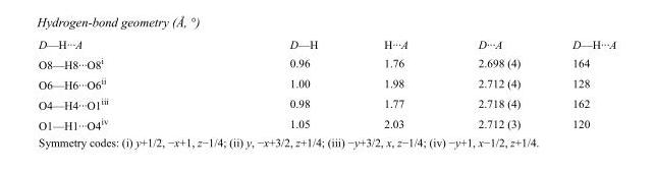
<table><tbody><tr><td>D—H···A</td><td>D—H</td><td>H···A</td><td>D···A</td><td>D—H···A</td></tr><tr><td>O8—H8···O8<sup>i</sup></td><td>0.96</td><td>1.76</td><td>2.698 (4)</td><td>164</td></tr><tr><td>O6—H6···O6<sup>ii</sup></td><td>1.00</td><td>1.98</td><td>2.712 (4)</td><td>128</td></tr><tr><td>O4—H4···O1<sup>iii</sup></td><td>0.98</td><td>1.77</td><td>2.718 (4)</td><td>162</td></tr><tr><td>O1—H1···O4<sup>iv</sup></td><td>1.05</td><td>2.03</td><td>2.712 (3)</td><td>120</td></tr></tbody></table>